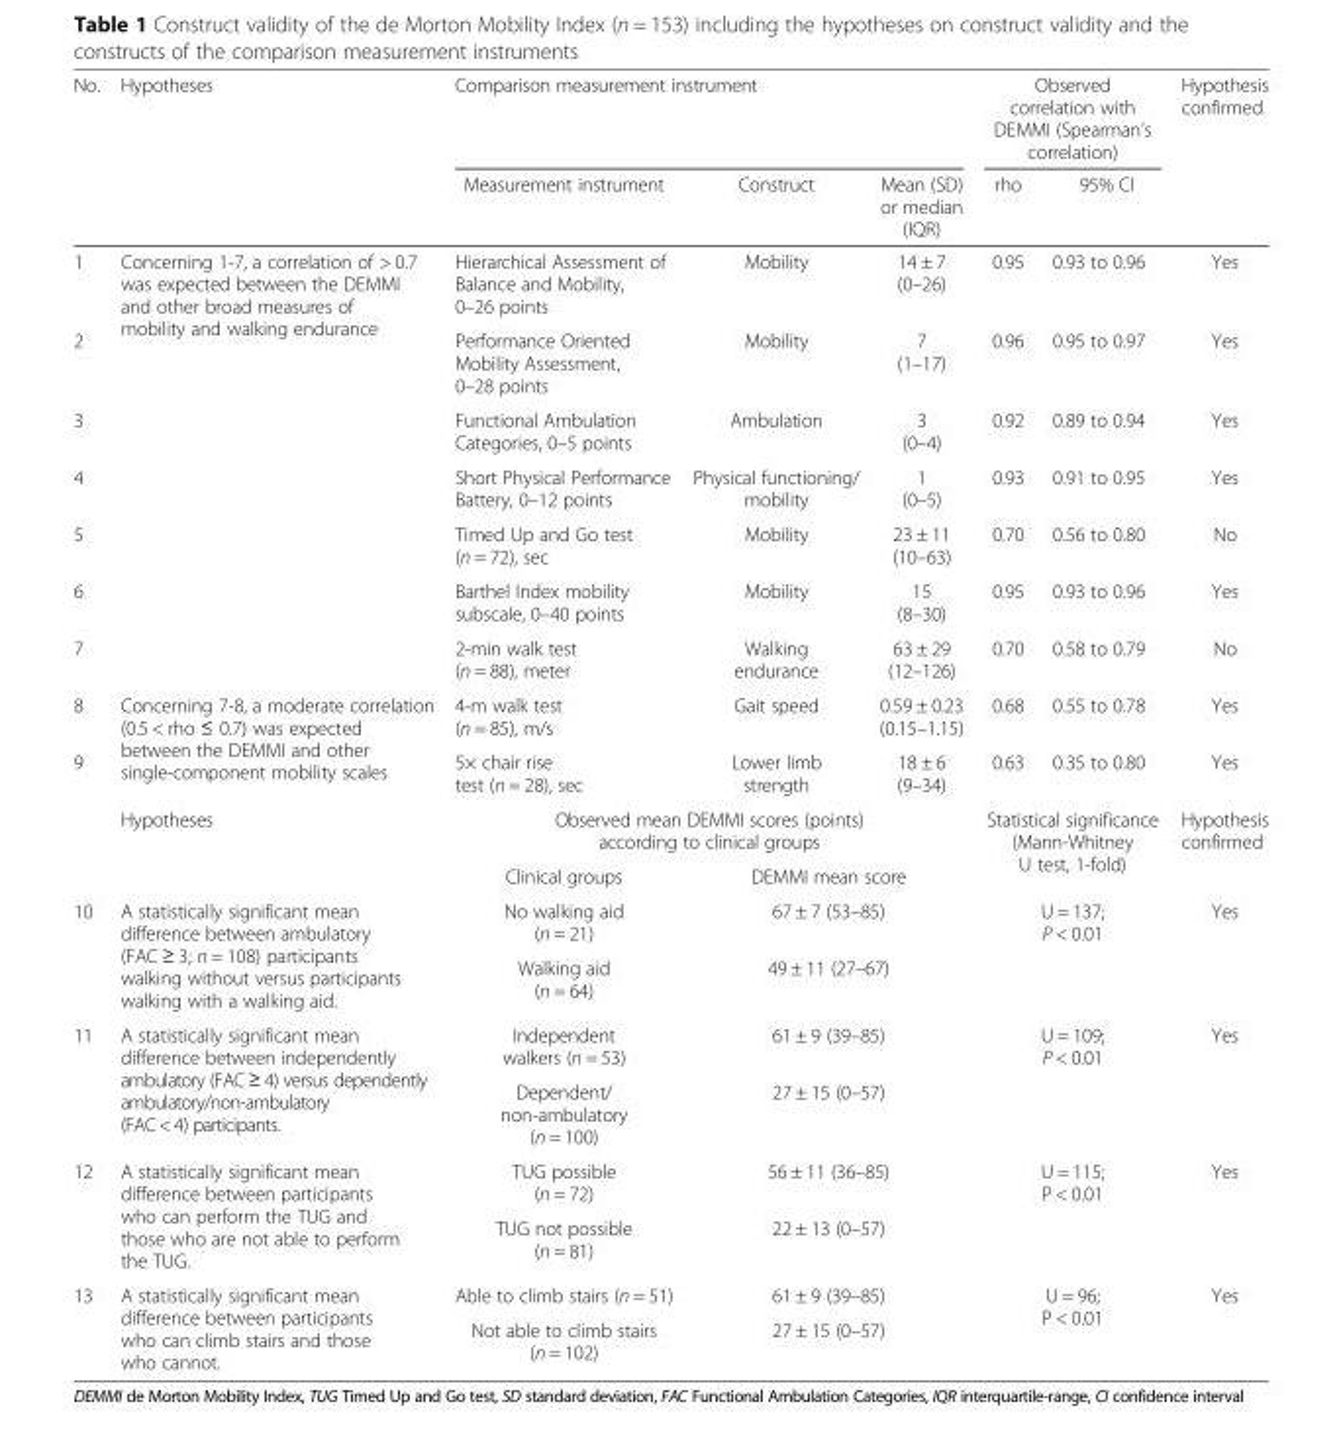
<table><thead><tr><td rowspan="2">No.</td><td rowspan="2">Hypotheses</td><td colspan="3">Comparison measurement instrument</td><td colspan="2">Observed correlation with DEMMI (Spearman’s correlation)</td><td rowspan="2">Hypothesis confirmed</td></tr><tr><td>Measurement instrument</td><td>Construct</td><td>Mean (SD) or median (IQR)</td><td>rho</td><td>95% CI</td></tr></thead><tbody><tr><td>1</td><td rowspan="7">Concerning 1-7, a correlation of &gt; 0.7 was expected between the DEMMI and other broad measures of mobility and walking endurance</td><td>Hierarchical Assessment of Balance and Mobility, 0–26 points</td><td>Mobility</td><td>14 ± 7 (0–26)</td><td>0.95</td><td>0.93 to 0.96</td><td>Yes</td></tr><tr><td>2</td><td>Performance Oriented Mobility Assessment, 0–28 points</td><td>Mobility</td><td>7 (1–17)</td><td>0.96</td><td>0.95 to 0.97</td><td>Yes</td></tr><tr><td>3</td><td>Functional Ambulation Categories, 0–5 points</td><td>Ambulation</td><td>3 (0–4)</td><td>0.92</td><td>0.89 to 0.94</td><td>Yes</td></tr><tr><td>4</td><td>Short Physical Performance Battery, 0–12 points</td><td>Physical functioning/ mobility</td><td>1 (0–5)</td><td>0.93</td><td>0.91 to 0.95</td><td>Yes</td></tr><tr><td>5</td><td>Timed Up and Go test (n = 72), sec</td><td>Mobility</td><td>23 ± 11 (10–63)</td><td>0.70</td><td>0.56 to 0.80</td><td>No</td></tr><tr><td>6</td><td>Barthel Index mobility subscale, 0–40 points</td><td>Mobility</td><td>15 (8–30)</td><td>0.95</td><td>0.93 to 0.96</td><td>Yes</td></tr><tr><td>7</td><td>2-min walk test (n = 88), meter</td><td>Walking endurance</td><td>63 ± 29 (12–126)</td><td>0.70</td><td>0.58 to 0.79</td><td>No</td></tr><tr><td>8</td><td rowspan="2">Concerning 7-8, a moderate correlation (0.5 &lt; rho ≤ 0.7) was expected between the DEMMI and other single-component mobility scales</td><td>4-m walk test (n = 85), m/s</td><td>Gait speed</td><td>0.59 ± 0.23 (0.15–1.15)</td><td>0.68</td><td>0.55 to 0.78</td><td>Yes</td></tr><tr><td rowspan="3">9</td><td>5× chair rise test (n = 28), sec</td><td>Lower limb strength</td><td>18 ± 6 (9–34)</td><td>0.63</td><td>0.35 to 0.80</td><td>Yes</td></tr><tr><td rowspan="2">Hypotheses</td><td colspan="3">Observed mean DEMMI scores (points) according to clinical groups</td><td rowspan="2" colspan="2">Statistical significance (Mann-Whitney U test, 1-fold)</td><td rowspan="2">Hypothesis confirmed</td></tr><tr><td>Clinical groups</td><td colspan="2">DEMMI mean score</td></tr><tr><td rowspan="2">10</td><td rowspan="2">A statistically significant mean difference between ambulatory (FAC ≥ 3; n = 108) participants walking without versus participants walking with a walking aid.</td><td>No walking aid (n = 21)</td><td colspan="2">67 ± 7 (53–85)</td><td rowspan="2" colspan="2">U = 137; P &lt; 0.01</td><td rowspan="2">Yes</td></tr><tr><td>Walking aid (n = 64)</td><td colspan="2">49 ± 11 (27–67)</td></tr><tr><td rowspan="2">11</td><td rowspan="2">A statistically significant mean difference between independently ambulatory (FAC ≥ 4) versus dependently ambulatory/non-ambulatory (FAC &lt; 4) participants.</td><td>Independent walkers (n = 53)</td><td colspan="2">61 ± 9 (39–85)</td><td rowspan="2" colspan="2">U = 109; P &lt; 0.01</td><td rowspan="2">Yes</td></tr><tr><td>Dependent/ non-ambulatory (n = 100)</td><td colspan="2">27 ± 15 (0–57)</td></tr><tr><td rowspan="2">12</td><td rowspan="2">A statistically significant mean difference between participants who can perform the TUG and those who are not able to perform the TUG.</td><td>TUG possible (n = 72)</td><td colspan="2">56 ± 11 (36–85)</td><td rowspan="2" colspan="2">U = 115; P &lt; 0.01</td><td rowspan="2">Yes</td></tr><tr><td>TUG not possible (n = 81)</td><td colspan="2">22 ± 13 (0–57)</td></tr><tr><td rowspan="2">13</td><td rowspan="2">A statistically significant mean difference between participants who can climb stairs and those who cannot.</td><td>Able to climb stairs (n = 51)</td><td colspan="2">61 ± 9 (39–85)</td><td rowspan="2" colspan="2">U = 96; P &lt; 0.01</td><td rowspan="2">Yes</td></tr><tr><td>Not able to climb stairs (n = 102)</td><td colspan="2">27 ± 15 (0–57)</td></tr></tbody></table>